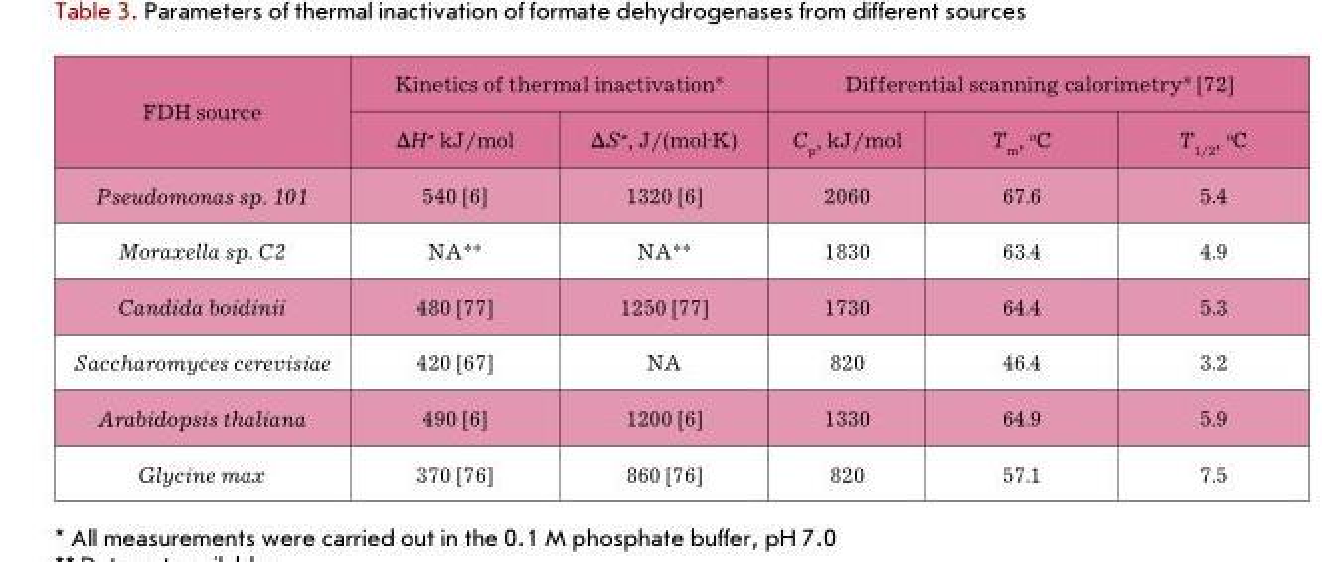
<table><thead><tr><td rowspan="2">FDH source</td><td colspan="2">Kinetics of thermal inactivation*</td><td colspan="3">Differential scanning calorimetry* [72]</td></tr><tr><td>ΔH<sup>≠</sup> kJ/mol</td><td>ΔS<sup>≠</sup>, J/(mol·K)</td><td>C<sub>p</sub>, kJ/mol</td><td>T<sub>m</sub>, <sup>o</sup>c</td><td>T<sub>1/2</sub>, <sup>o</sup>c</td></tr></thead><tbody><tr><td>Pseudomonas sp. 101</td><td>540 [6]</td><td>1320 [6]</td><td>2060</td><td>67.6</td><td>5.4</td></tr><tr><td>Moraxella sp. C2</td><td>nA**</td><td>nA**</td><td>1830</td><td>63.4</td><td>4.9</td></tr><tr><td>Candida boidinii</td><td>480 [77]</td><td>1250 [77]</td><td>1730</td><td>64.4</td><td>5.3</td></tr><tr><td>Saccharomyces cerevisiae</td><td>420 [67]</td><td>nA</td><td>820</td><td>46.4</td><td>3.2</td></tr><tr><td>Arabidopsis thaliana</td><td>490 [6]</td><td>1200 [6]</td><td>1330</td><td>64.9</td><td>5.9</td></tr><tr><td>Glycine max</td><td>370 [76]</td><td>860 [76]</td><td>820</td><td>57.1</td><td>7.5</td></tr></tbody></table>